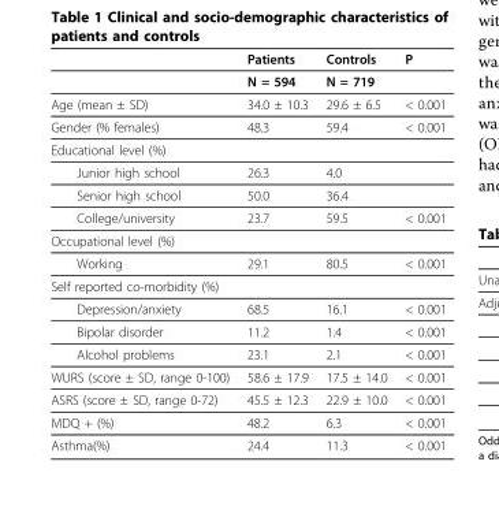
<table><thead><tr><td></td><td>Patients</td><td>Controls</td><td>P</td></tr></thead><tbody><tr><td></td><td>N = 594</td><td>N = 719</td><td></td></tr><tr><td>Age (mean ± SD)</td><td>34.0 ± 10.3</td><td>29.6 ± 6.5</td><td>&lt; 0.001</td></tr><tr><td>Gender (% females)</td><td>48.3</td><td>59.4</td><td>&lt; 0.001</td></tr><tr><td colspan="4">Educational level (%)</td></tr><tr><td>Junior high school</td><td>26.3</td><td>4.0</td><td></td></tr><tr><td>Senior high school</td><td>50.0</td><td>36.4</td><td></td></tr><tr><td>College/university</td><td>23.7</td><td>59.5</td><td>&lt; 0.001</td></tr><tr><td colspan="4">Occupational level (%)</td></tr><tr><td>Working</td><td>29.1</td><td>80.5</td><td>&lt; 0.001</td></tr><tr><td colspan="4">Self reported co-morbidity (%)</td></tr><tr><td>Depression/anxiety</td><td>68.5</td><td>16.1</td><td>&lt; 0.001</td></tr><tr><td>Bipolar disorder</td><td>11.2</td><td>1.4</td><td>&lt; 0.001</td></tr><tr><td>Alcohol problems</td><td>23.1</td><td>2.1</td><td>&lt; 0.001</td></tr><tr><td>WURS (score ± SD, range 0-100)</td><td>58.6 ± 17.9</td><td>17.5 ± 14.0</td><td>&lt; 0.001</td></tr><tr><td>ASRS (score ± SD, range 0-72)</td><td>45.5 ± 12.3</td><td>22.9 ± 10.0</td><td>&lt; 0.001</td></tr><tr><td>MDQ + (%)</td><td>48.2</td><td>6.3</td><td>&lt; 0.001</td></tr><tr><td>Asthma(%)</td><td>24.4</td><td>11.3</td><td>&lt; 0.001</td></tr></tbody></table>